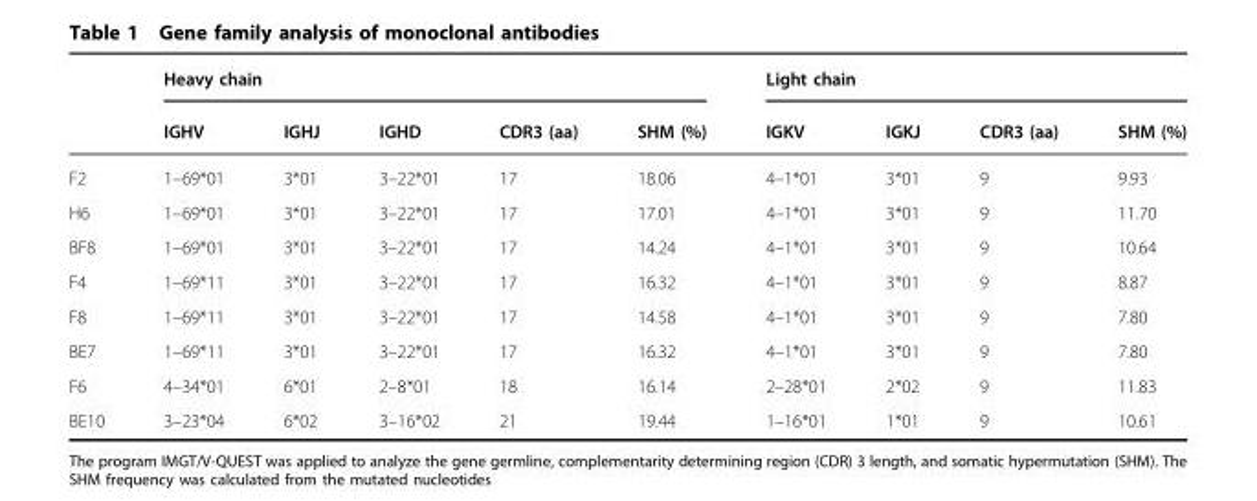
<table><thead><tr><td rowspan="2"></td><td colspan="5">Heavy chain</td><td colspan="4">Light chain</td></tr><tr><td>IGHV</td><td>IGHJ</td><td>IGHD</td><td>CDR3 (aa)</td><td>SHM (%)</td><td>IGKV</td><td>IGKJ</td><td>CDR3 (aa)</td><td>SHM (%)</td></tr></thead><tbody><tr><td>F2</td><td>1–69*01</td><td>3*01</td><td>3–22*01</td><td>17</td><td>18.06</td><td>4–1*01</td><td>3*01</td><td>9</td><td>9.93</td></tr><tr><td>H6</td><td>1–69*01</td><td>3*01</td><td>3–22*01</td><td>17</td><td>17.01</td><td>4–1*01</td><td>3*01</td><td>9</td><td>11.70</td></tr><tr><td>BF8</td><td>1–69*01</td><td>3*01</td><td>3–22*01</td><td>17</td><td>14.24</td><td>4–1*01</td><td>3*01</td><td>9</td><td>10.64</td></tr><tr><td>F4</td><td>1–69*11</td><td>3*01</td><td>3–22*01</td><td>17</td><td>16.32</td><td>4–1*01</td><td>3*01</td><td>9</td><td>8.87</td></tr><tr><td>F8</td><td>1–69*11</td><td>3*01</td><td>3–22*01</td><td>17</td><td>14.58</td><td>4–1*01</td><td>3*01</td><td>9</td><td>7.80</td></tr><tr><td>BE7</td><td>1–69*11</td><td>3*01</td><td>3–22*01</td><td>17</td><td>16.32</td><td>4–1*01</td><td>3*01</td><td>9</td><td>7.80</td></tr><tr><td>F6</td><td>4–34*01</td><td>6*01</td><td>2–8*01</td><td>18</td><td>16.14</td><td>2–28*01</td><td>2*02</td><td>9</td><td>11.83</td></tr><tr><td>BE10</td><td>3–23*04</td><td>6*02</td><td>3–16*02</td><td>21</td><td>19.44</td><td>1–16*01</td><td>1*01</td><td>9</td><td>10.61</td></tr></tbody></table>